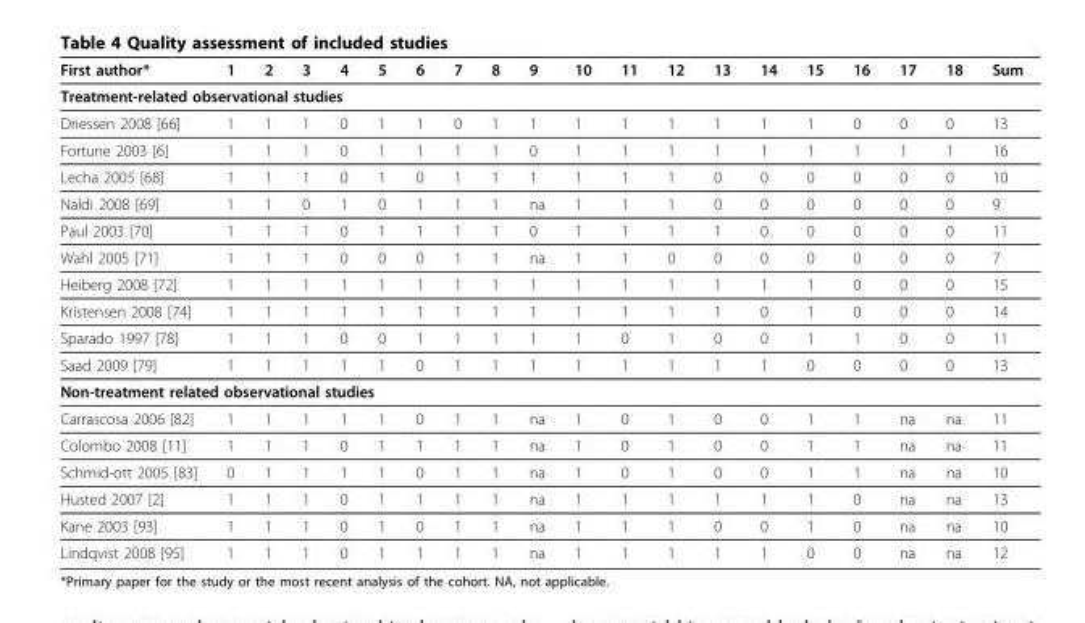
<table><thead><tr><td>First author*</td><td>1</td><td>2</td><td>3</td><td>4</td><td>5</td><td>6</td><td>7</td><td>8</td><td>9</td><td>10</td><td>11</td><td>12</td><td>13</td><td>14</td><td>15</td><td>16</td><td>17</td><td>18</td><td>Sum</td></tr></thead><tbody><tr><td colspan="20">Treatment-related observational studies</td></tr><tr><td>Driessen 2008 [66]</td><td>1</td><td>1</td><td>1</td><td>0</td><td>1</td><td>1</td><td>0</td><td>1</td><td>1</td><td>1</td><td>1</td><td>1</td><td>1</td><td>1</td><td>1</td><td>0</td><td>0</td><td>0</td><td>13</td></tr><tr><td>Fortune 2003 [6]</td><td>1</td><td>1</td><td>1</td><td>0</td><td>1</td><td>1</td><td>1</td><td>1</td><td>0</td><td>1</td><td>1</td><td>1</td><td>1</td><td>1</td><td>1</td><td>1</td><td>1</td><td>1</td><td>16</td></tr><tr><td>Lecha 2005 [68]</td><td>1</td><td>1</td><td>1</td><td>0</td><td>1</td><td>0</td><td>1</td><td>1</td><td>1</td><td>1</td><td>1</td><td>1</td><td>0</td><td>0</td><td>0</td><td>0</td><td>0</td><td>0</td><td>10</td></tr><tr><td>Naldi 2008 [69]</td><td>1</td><td>1</td><td>0</td><td>1</td><td>0</td><td>1</td><td>1</td><td>1</td><td>na</td><td>1</td><td>1</td><td>1</td><td>0</td><td>0</td><td>0</td><td>0</td><td>0</td><td>0</td><td>9</td></tr><tr><td>Paul 2003 [70]</td><td>1</td><td>1</td><td>1</td><td>0</td><td>1</td><td>1</td><td>1</td><td>1</td><td>0</td><td>1</td><td>1</td><td>1</td><td>1</td><td>0</td><td>0</td><td>0</td><td>0</td><td>0</td><td>11</td></tr><tr><td>Wahl 2005 [71]</td><td>1</td><td>1</td><td>1</td><td>0</td><td>0</td><td>0</td><td>1</td><td>1</td><td>na</td><td>1</td><td>1</td><td>0</td><td>0</td><td>0</td><td>0</td><td>0</td><td>0</td><td>0</td><td>7</td></tr><tr><td>Heiberg 2008 [72]</td><td>1</td><td>1</td><td>1</td><td>1</td><td>1</td><td>1</td><td>1</td><td>1</td><td>1</td><td>1</td><td>1</td><td>1</td><td>1</td><td>1</td><td>1</td><td>0</td><td>0</td><td>0</td><td>15</td></tr><tr><td>Kristensen 2008 [74]</td><td>1</td><td>1</td><td>1</td><td>1</td><td>1</td><td>1</td><td>1</td><td>1</td><td>1</td><td>1</td><td>1</td><td>1</td><td>1</td><td>0</td><td>1</td><td>0</td><td>0</td><td>0</td><td>14</td></tr><tr><td>Sparado 1997 [78]</td><td>1</td><td>1</td><td>1</td><td>0</td><td>0</td><td>1</td><td>1</td><td>1</td><td>1</td><td>1</td><td>0</td><td>1</td><td>0</td><td>0</td><td>1</td><td>1</td><td>0</td><td>0</td><td>11</td></tr><tr><td>Saad 2009 [79]</td><td>1</td><td>1</td><td>1</td><td>1</td><td>1</td><td>0</td><td>1</td><td>1</td><td>1</td><td>1</td><td>1</td><td>1</td><td>1</td><td>1</td><td>0</td><td>0</td><td>0</td><td>0</td><td>13</td></tr><tr><td colspan="20">Non-treatment related observational studies</td></tr><tr><td>Carrascosa 2006 [82]</td><td>1</td><td>1</td><td>1</td><td>1</td><td>1</td><td>0</td><td>1</td><td>1</td><td>na</td><td>1</td><td>0</td><td>1</td><td>0</td><td>0</td><td>1</td><td>1</td><td>na</td><td>na</td><td>11</td></tr><tr><td>Colombo 2008 [11]</td><td>1</td><td>1</td><td>1</td><td>0</td><td>1</td><td>1</td><td>1</td><td>1</td><td>na</td><td>1</td><td>0</td><td>1</td><td>0</td><td>0</td><td>1</td><td>1</td><td>na</td><td>na</td><td>11</td></tr><tr><td>Schmid-ott 2005 [83]</td><td>0</td><td>1</td><td>1</td><td>1</td><td>1</td><td>0</td><td>1</td><td>1</td><td>na</td><td>1</td><td>0</td><td>1</td><td>0</td><td>0</td><td>1</td><td>1</td><td>na</td><td>na</td><td>10</td></tr><tr><td>Husted 2007 [2]</td><td>1</td><td>1</td><td>1</td><td>0</td><td>1</td><td>1</td><td>1</td><td>1</td><td>na</td><td>1</td><td>1</td><td>1</td><td>1</td><td>1</td><td>1</td><td>0</td><td>na</td><td>na</td><td>13</td></tr><tr><td>Kane 2003 [93]</td><td>1</td><td>1</td><td>1</td><td>0</td><td>1</td><td>0</td><td>1</td><td>1</td><td>na</td><td>1</td><td>1</td><td>1</td><td>0</td><td>0</td><td>1</td><td>0</td><td>na</td><td>na</td><td>10</td></tr><tr><td>Lindqvist 2008 [95]</td><td>1</td><td>1</td><td>1</td><td>0</td><td>1</td><td>1</td><td>1</td><td>1</td><td>na</td><td>1</td><td>1</td><td>1</td><td>1</td><td>1</td><td>0</td><td>0</td><td>na</td><td>na</td><td>12</td></tr></tbody></table>